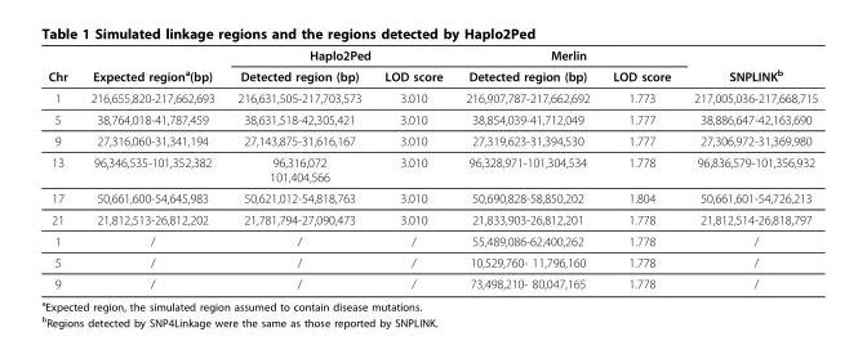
<table><thead><tr><td rowspan="2">Chr</td><td rowspan="2">Expected region<sup>a</sup>(bp)</td><td colspan="2">Haplo2Ped</td><td colspan="2">Merlin</td><td rowspan="2">SNPLINK<sup>b</sup></td></tr><tr><td>Detected region (bp)</td><td>LOD score</td><td>Detected region (bp)</td><td>LOD score</td></tr></thead><tbody><tr><td>1</td><td>216,655,820-217,662,693</td><td>216,631,505-217,703,573</td><td>3.010</td><td>216,907,787-217,662,692</td><td>1.773</td><td>217,005,036-217,668,715</td></tr><tr><td>5</td><td>38,764,018-41,787,459</td><td>38,631,518-42,305,421</td><td>3.010</td><td>38,854,039-41,712,049</td><td>1.777</td><td>38,886,647-42,163,690</td></tr><tr><td>9</td><td>27,316,060-31,341,194</td><td>27,143,875-31,616,167</td><td>3.010</td><td>27,319,623-31,394,530</td><td>1.777</td><td>27,306,972-31,369,980</td></tr><tr><td>13</td><td>96,346,535-101,352,382</td><td>96,316,072 101,404,566</td><td>3.010</td><td>96,328,971-101,304,534</td><td>1.778</td><td>96,836,579-101,356,932</td></tr><tr><td>17</td><td>50,661,600-54,645,983</td><td>50,621,012-54,818,763</td><td>3.010</td><td>50,690,828-58,850,202</td><td>1.804</td><td>50,661,601-54,726,213</td></tr><tr><td>21</td><td>21,812,513-26,812,202</td><td>21,781,794-27,090,473</td><td>3.010</td><td>21,833,903-26,812,201</td><td>1.778</td><td>21,812,514-26,818,797</td></tr><tr><td>1</td><td>/</td><td>/</td><td>/</td><td>55,489,086-62,400,262</td><td>1.778</td><td>/</td></tr><tr><td>5</td><td>/</td><td>/</td><td>/</td><td>10,529,760- 11,796,160</td><td>1.778</td><td>/</td></tr><tr><td>9</td><td>/</td><td>/</td><td>/</td><td>73,498,210- 80,047,165</td><td>1.778</td><td>/</td></tr></tbody></table>